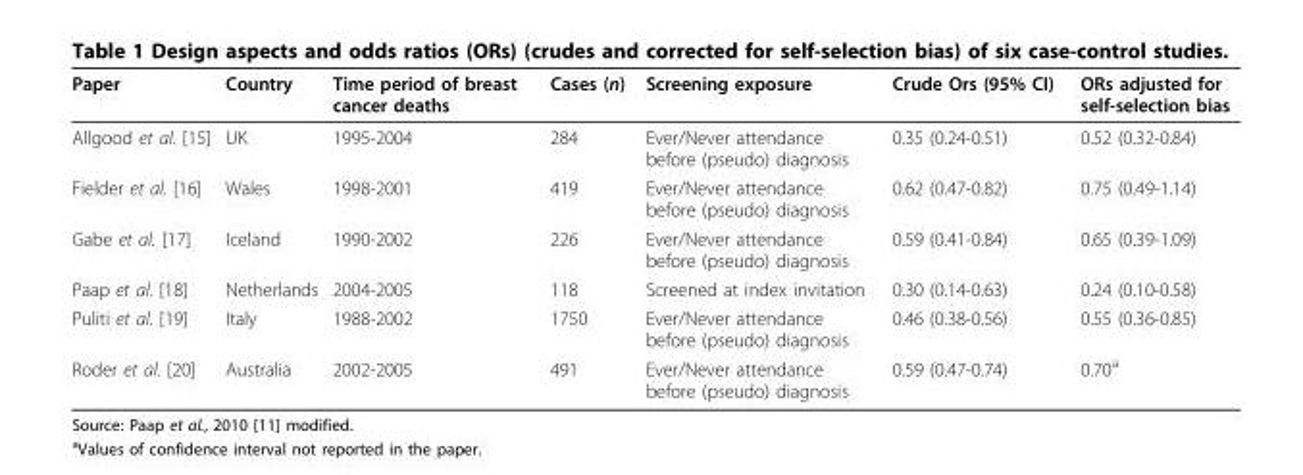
<table><thead><tr><td>Paper</td><td>Country</td><td>Time period of breast cancer deaths</td><td>Cases (n)</td><td>Screening exposure</td><td>Crude Ors (95% CI)</td><td>ORs adjusted for self-selection bias</td></tr></thead><tbody><tr><td>Allgood et al. [15]</td><td>UK</td><td>1995-2004</td><td>284</td><td>Ever/Never attendance before (pseudo) diagnosis</td><td>0.35 (0.24-0.51)</td><td>0.52 (0.32-0.84)</td></tr><tr><td>Fielder et al. [16]</td><td>Wales</td><td>1998-2001</td><td>419</td><td>Ever/Never attendance before (pseudo) diagnosis</td><td>0.62 (0.47-0.82)</td><td>0.75 (0.49-1.14)</td></tr><tr><td>Gabe et al. [17]</td><td>Iceland</td><td>1990-2002</td><td>226</td><td>Ever/Never attendance before (pseudo) diagnosis</td><td>0.59 (0.41-0.84)</td><td>0.65 (0.39-1.09)</td></tr><tr><td>Paap et al. [18]</td><td>Netherlands</td><td>2004-2005</td><td>118</td><td>Screened at index invitation</td><td>0.30 (0.14-0.63)</td><td>0.24 (0.10-0.58)</td></tr><tr><td>Puliti et al. [19]</td><td>Italy</td><td>1988-2002</td><td>1750</td><td>Ever/Never attendance before (pseudo) diagnosis</td><td>0.46 (0.38-0.56)</td><td>0.55 (0.36-0.85)</td></tr><tr><td>Roder et al. [20]</td><td>Australia</td><td>2002-2005</td><td>491</td><td>Ever/Never attendance before (pseudo) diagnosis</td><td>0.59 (0.47-0.74)</td><td>0.70<sup>a</sup></td></tr></tbody></table>